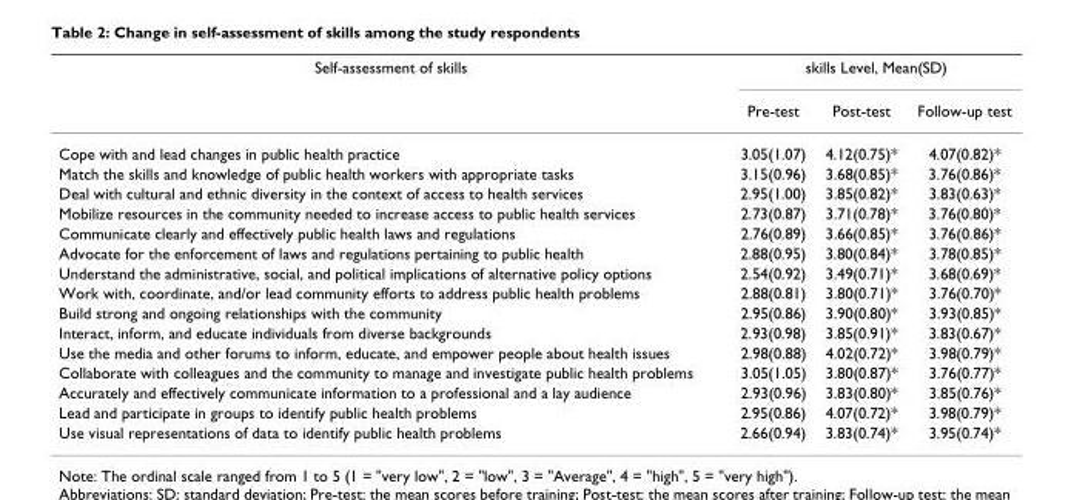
<table><thead><tr><td rowspan="2">Self-assessment of skills</td><td colspan="3">skills Level, Mean(SD)</td></tr><tr><td>Pre-test</td><td>Post-test</td><td>Follow-up test</td></tr></thead><tbody><tr><td>Cope with and lead changes in public health practice</td><td>3.05(1.07)</td><td>4.12(0.75)*</td><td>4.07(0.82)*</td></tr><tr><td>Match the skills and knowledge of public health workers with appropriate tasks</td><td>3.15(0.96)</td><td>3.68(0.85)*</td><td>3.76(0.86)*</td></tr><tr><td>Deal with cultural and ethnic diversity in the context of access to health services</td><td>2.95(1.00)</td><td>3.85(0.82)*</td><td>3.83(0.63)*</td></tr><tr><td>Mobilize resources in the community needed to increase access to public health services</td><td>2.73(0.87)</td><td>3.71(0.78)*</td><td>3.76(0.80)*</td></tr><tr><td>Communicate clearly and effectively public health laws and regulations</td><td>2.76(0.89)</td><td>3.66(0.85)*</td><td>3.76(0.86)*</td></tr><tr><td>Advocate for the enforcement of laws and regulations pertaining to public health</td><td>2.88(0.95)</td><td>3.80(0.84)*</td><td>3.78(0.85)*</td></tr><tr><td>Understand the administrative, social, and political implications of alternative policy options</td><td>2.54(0.92)</td><td>3.49(0.71)*</td><td>3.68(0.69)*</td></tr><tr><td>Work with, coordinate, and/or lead community efforts to address public health problems</td><td>2.88(0.81)</td><td>3.80(0.71)*</td><td>3.76(0.70)*</td></tr><tr><td>Build strong and ongoing relationships with the community</td><td>2.95(0.86)</td><td>3.90(0.80)*</td><td>3.93(0.85)*</td></tr><tr><td>Interact, inform, and educate individuals from diverse backgrounds</td><td>2.93(0.98)</td><td>3.85(0.91)*</td><td>3.83(0.67)*</td></tr><tr><td>Use the media and other forums to inform, educate, and empower people about health issues</td><td>2.98(0.88)</td><td>4.02(0.72)*</td><td>3.98(0.79)*</td></tr><tr><td>Collaborate with colleagues and the community to manage and investigate public health problems</td><td>3.05(1.05)</td><td>3.80(0.87)*</td><td>3.76(0.77)*</td></tr><tr><td>Accurately and effectively communicate information to a professional and a lay audience</td><td>2.93(0.96)</td><td>3.83(0.80)*</td><td>3.85(0.76)*</td></tr><tr><td>Lead and participate in groups to identify public health problems</td><td>2.95(0.86)</td><td>4.07(0.72)*</td><td>3.98(0.79)*</td></tr><tr><td>Use visual representations of data to identify public health problems</td><td>2.66(0.94)</td><td>3.83(0.74)*</td><td>3.95(0.74)*</td></tr></tbody></table>